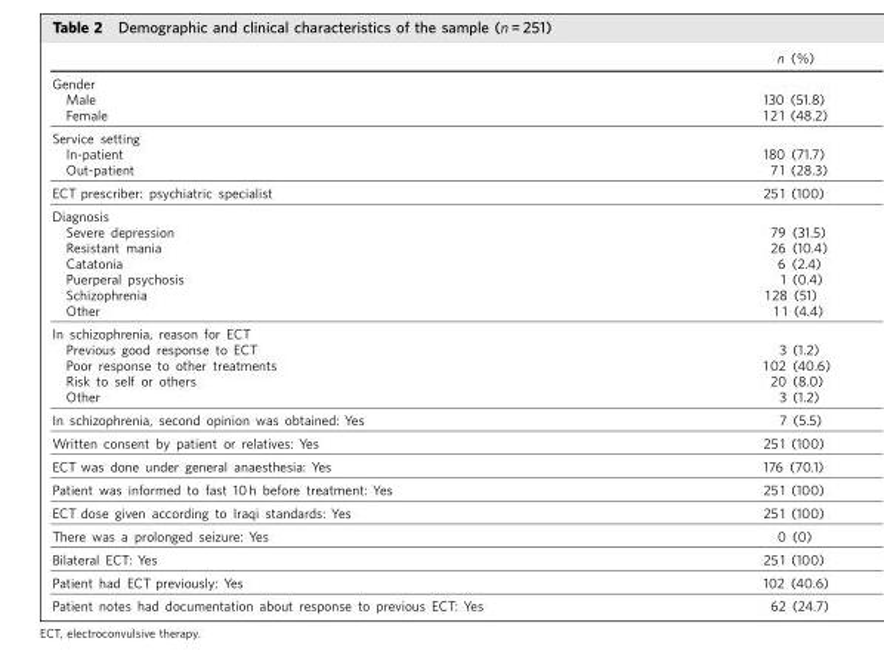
<table><thead><tr><td></td><td>n (%)</td></tr></thead><tbody><tr><td colspan="2">Gender</td></tr><tr><td>Male</td><td>130 (51.8)</td></tr><tr><td>Female</td><td>121 (48.2)</td></tr><tr><td colspan="2">Service setting</td></tr><tr><td>In-patient</td><td>180 (71.7)</td></tr><tr><td>Out-patient</td><td>71 (28.3)</td></tr><tr><td>ECT prescriber: psychiatric specialist</td><td>251 (100)</td></tr><tr><td colspan="2">Diagnosis</td></tr><tr><td>Severe depression</td><td>79 (31.5)</td></tr><tr><td>Resistant mania</td><td>26 (10.4)</td></tr><tr><td>Catatonia</td><td>6 (2.4)</td></tr><tr><td>Puerperal psychosis</td><td>1 (0.4)</td></tr><tr><td>Schizophrenia</td><td>128 (51)</td></tr><tr><td>Other</td><td>1 1 (4.4)</td></tr><tr><td colspan="2">In schizophrenia, reason for ECT</td></tr><tr><td>Previous good response to ECT</td><td>3 (1.2)</td></tr><tr><td>Poor response to other treatments</td><td>102 (40.6)</td></tr><tr><td>Risk to self or others</td><td>20 (8.0)</td></tr><tr><td>Other</td><td>3 (1.2)</td></tr><tr><td>In schizophrenia, second opinion was obtained: Yes</td><td>7 (5.5)</td></tr><tr><td>Written consent by patient or relatives: Yes</td><td>251 (100)</td></tr><tr><td>ECT was done under general anaesthesia: Yes</td><td>176 (70.1)</td></tr><tr><td>Patient was informed to fast 10 h before treatment: Yes</td><td>251 (100)</td></tr><tr><td>ECT dose given according to Iraqi standards: Yes</td><td>251 (100)</td></tr><tr><td>There was a prolonged seizure: Yes</td><td>0 (0)</td></tr><tr><td>Bilateral ECT: Yes</td><td>251 (100)</td></tr><tr><td>Patient had ECT previously: Yes</td><td>102 (40.6)</td></tr><tr><td>Patient notes had documentation about response to previous ECT: Yes</td><td>62 (24.7)</td></tr></tbody></table>